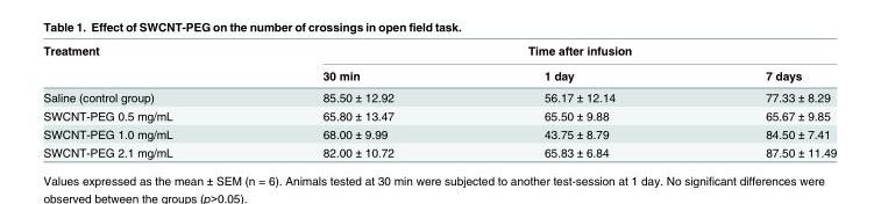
<table><thead><tr><td rowspan="2">Treatment</td><td colspan="3">Time after infusion</td></tr><tr><td>30 min</td><td>1 day</td><td>7 days</td></tr></thead><tbody><tr><td>Saline (control group)</td><td>85.50 ± 12.92</td><td>56.17 ± 12.14</td><td>77.33 ± 8.29</td></tr><tr><td>SWCNT-PEG 0.5 mg/mL</td><td>65.80 ± 13.47</td><td>65.50 ± 9.88</td><td>65.67 ± 9.85</td></tr><tr><td>SWCNT-PEG 1.0 mg/mL</td><td>68.00 ± 9.99</td><td>43.75 ± 8.79</td><td>84.50 ± 7.41</td></tr><tr><td>SWCNT-PEG 2.1 mg/mL</td><td>82.00 ± 10.72</td><td>65.83 ± 6.84</td><td>87.50 ± 11.49</td></tr></tbody></table>